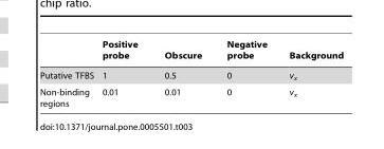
<table><thead><tr><td></td><td>Positive probe</td><td>Obscure</td><td>Negative probe</td><td>Background</td></tr></thead><tbody><tr><td>Putative TFBS</td><td>1</td><td>0.5</td><td>0</td><td>v<sub>x</sub></td></tr><tr><td>Non-binding regions</td><td>0.01</td><td>0.01</td><td>0</td><td>v<sub>x</sub></td></tr></tbody></table>